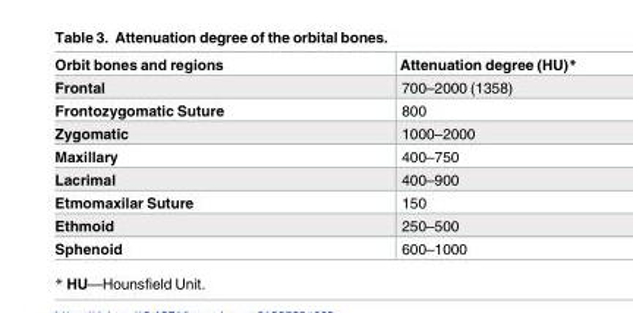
<table><thead><tr><td>Orbit bones and regions</td><td>Attenuation degree (HU)*</td></tr></thead><tbody><tr><td>Frontal</td><td>700–2000 (1358)</td></tr><tr><td>Frontozygomatic Suture</td><td>800</td></tr><tr><td>Zygomatic</td><td>1000–2000</td></tr><tr><td>Maxillary</td><td>400–750</td></tr><tr><td>Lacrimal</td><td>400–900</td></tr><tr><td>Etmomaxilar Suture</td><td>150</td></tr><tr><td>Ethmoid</td><td>250–500</td></tr><tr><td>Sphenoid</td><td>600–1000</td></tr></tbody></table>